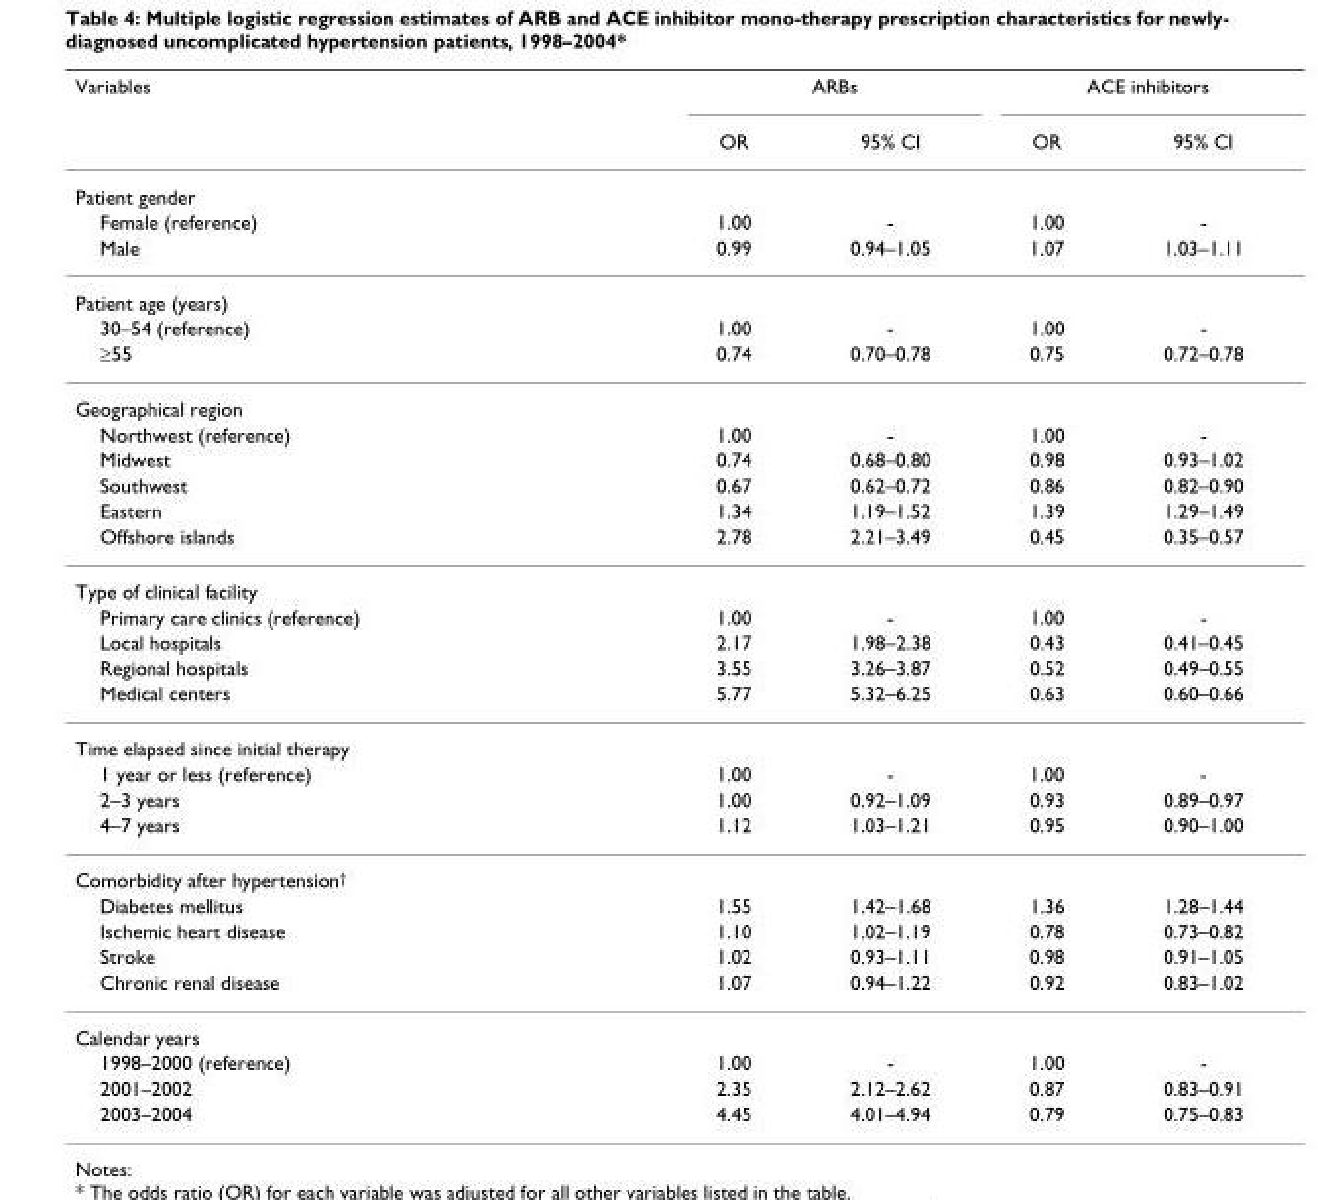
<table><thead><tr><td rowspan="2">Variables</td><td colspan="2">ARBs</td><td colspan="2">ACE inhibitors</td></tr><tr><td>OR</td><td>95% CI</td><td>OR</td><td>95% CI</td></tr></thead><tbody><tr><td colspan="5">Patient gender</td></tr><tr><td>Female (reference)</td><td>1.00</td><td>-</td><td>1.00</td><td>-</td></tr><tr><td>Male</td><td>0.99</td><td>0.94–1.05</td><td>1.07</td><td>1.03–1.11</td></tr><tr><td colspan="5">Patient age (years)</td></tr><tr><td>30–54 (reference)</td><td>1.00</td><td>-</td><td>1.00</td><td>-</td></tr><tr><td>≥55</td><td>0.74</td><td>0.70–0.78</td><td>0.75</td><td>0.72–0.78</td></tr><tr><td colspan="5">Geographical region</td></tr><tr><td>Northwest (reference)</td><td>1.00</td><td>-</td><td>1.00</td><td>-</td></tr><tr><td>Midwest</td><td>0.74</td><td>0.68–0.80</td><td>0.98</td><td>0.93–1.02</td></tr><tr><td>Southwest</td><td>0.67</td><td>0.62–0.72</td><td>0.86</td><td>0.82–0.90</td></tr><tr><td>Eastern</td><td>1.34</td><td>1.19–1.52</td><td>1.39</td><td>1.29–1.49</td></tr><tr><td>Offshore islands</td><td>2.78</td><td>2.21–3.49</td><td>0.45</td><td>0.35–0.57</td></tr><tr><td colspan="5">Type of clinical facility</td></tr><tr><td>Primary care clinics (reference)</td><td>1.00</td><td>-</td><td>1.00</td><td>-</td></tr><tr><td>Local hospitals</td><td>2.17</td><td>1.98–2.38</td><td>0.43</td><td>0.41–0.45</td></tr><tr><td>Regional hospitals</td><td>3.55</td><td>3.26–3.87</td><td>0.52</td><td>0.49–0.55</td></tr><tr><td>Medical centers</td><td>5.77</td><td>5.32–6.25</td><td>0.63</td><td>0.60–0.66</td></tr><tr><td colspan="5">Time elapsed since initial therapy</td></tr><tr><td>1 year or less (reference)</td><td>1.00</td><td>-</td><td>1.00</td><td>-</td></tr><tr><td>2–3 years</td><td>1.00</td><td>0.92–1.09</td><td>0.93</td><td>0.89–0.97</td></tr><tr><td>4–7 years</td><td>1.12</td><td>1.03–1.21</td><td>0.95</td><td>0.90–1.00</td></tr><tr><td colspan="5">Comorbidity after hypertension<sup>†</sup></td></tr><tr><td>Diabetes mellitus</td><td>1.55</td><td>1.42–1.68</td><td>1.36</td><td>1.28–1.44</td></tr><tr><td>Ischemic heart disease</td><td>1.10</td><td>1.02–1.19</td><td>0.78</td><td>0.73–0.82</td></tr><tr><td>Stroke</td><td>1.02</td><td>0.93–1.11</td><td>0.98</td><td>0.91–1.05</td></tr><tr><td>Chronic renal disease</td><td>1.07</td><td>0.94–1.22</td><td>0.92</td><td>0.83–1.02</td></tr><tr><td colspan="5">Calendar years</td></tr><tr><td>1998–2000 (reference)</td><td>1.00</td><td>-</td><td>1.00</td><td>-</td></tr><tr><td>2001–2002</td><td>2.35</td><td>2.12–2.62</td><td>0.87</td><td>0.83–0.91</td></tr><tr><td>2003–2004</td><td>4.45</td><td>4.01–4.94</td><td>0.79</td><td>0.75–0.83</td></tr></tbody></table>